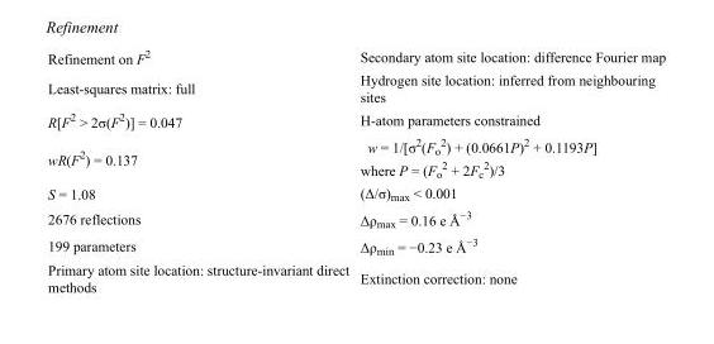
<table><tbody><tr><td>Refinement on F<sup>2</sup></td><td>Secondary atom site location: difference Fourier map</td></tr><tr><td>Least-squares matrix: full</td><td>Hydrogen site location: inferred from neighbouring sites</td></tr><tr><td>R[F<sup>2</sup> &gt; 2σ(F<sup>2</sup>)] = 0.047</td><td>H-atom parameters constrained</td></tr><tr><td>wR(F<sup>2</sup>) = 0.137</td><td>w = 1/[σ<sup>2</sup>(F<sub>o</sub> <sup>2</sup>) + (0.0661P)<sup>2</sup> + 0.1193P] where P = (F<sub>o</sub> <sup>2</sup> + 2F<sub>c</sub> <sup>2</sup>)/3</td></tr><tr><td>S = 1.08</td><td>(Δ/σ)<sub>max</sub> &lt; 0.001</td></tr><tr><td>2676 reflections</td><td>Δρ<sub>max</sub> = 0.16 e Å<sup>−3</sup></td></tr><tr><td>199 parameters</td><td>Δρ<sub>min</sub> = −0.23 e Å<sup>−3</sup></td></tr><tr><td>Primary atom site location: structure-invariant direct methods</td><td>Extinction correction: none</td></tr></tbody></table>